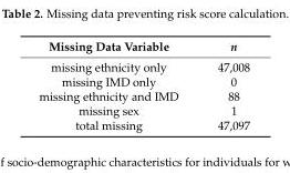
<table><thead><tr><td>Missing Data Variable</td><td>n</td></tr></thead><tbody><tr><td>missing ethnicity only</td><td>47,008</td></tr><tr><td>missing IMD only</td><td>0</td></tr><tr><td>missing ethnicity and IMD</td><td>88</td></tr><tr><td>missing sex</td><td>1</td></tr><tr><td>total missing</td><td>47,097</td></tr></tbody></table>